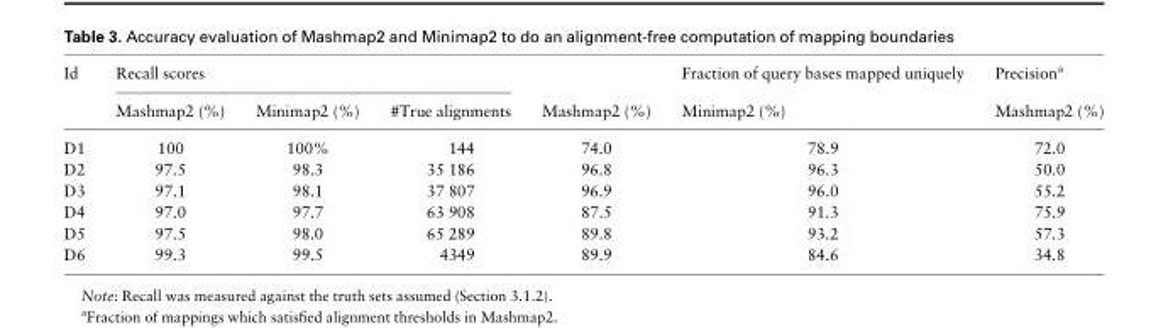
<table><thead><tr><td rowspan="2">Id</td><td colspan="3">Recall scores</td><td rowspan="2">Mashmap2 (%)</td><td rowspan="2">Fraction of query bases mapped uniquely Minimap2 (%)</td><td rowspan="2">Precision<sup>a</sup> Mashmap2 (%)</td></tr><tr><td>Mashmap2 (%)</td><td>Minimap2 (%)</td><td>#True alignments</td></tr></thead><tbody><tr><td>D1</td><td>100</td><td>100%</td><td>144</td><td>74.0</td><td>78.9</td><td>72.0</td></tr><tr><td>D2</td><td>97.5</td><td>98.3</td><td>35 186</td><td>96.8</td><td>96.3</td><td>50.0</td></tr><tr><td>D3</td><td>97.1</td><td>98.1</td><td>37 807</td><td>96.9</td><td>96.0</td><td>55.2</td></tr><tr><td>D4</td><td>97.0</td><td>97.7</td><td>63 908</td><td>87.5</td><td>91.3</td><td>75.9</td></tr><tr><td>D5</td><td>97.5</td><td>98.0</td><td>65 289</td><td>89.8</td><td>93.2</td><td>57.3</td></tr><tr><td>D6</td><td>99.3</td><td>99.5</td><td>4349</td><td>89.9</td><td>84.6</td><td>34.8</td></tr></tbody></table>